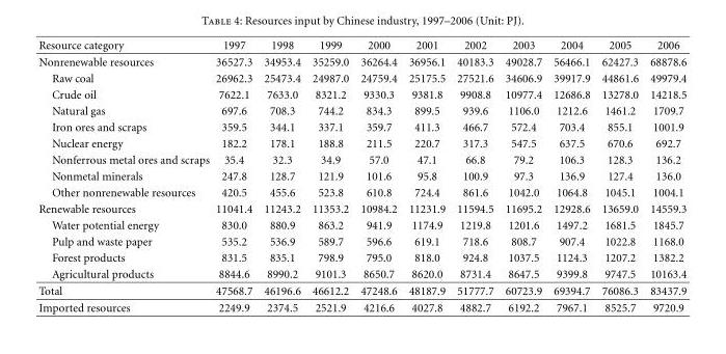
<table><thead><tr><td>Resource category</td><td>1997</td><td>1998</td><td>1999</td><td>2000</td><td>2001</td><td>2002</td><td>2003</td><td>2004</td><td>2005</td><td>2006</td></tr></thead><tbody><tr><td>Nonrenewable resources</td><td>36527.3</td><td>34953.4</td><td>35259.0</td><td>36264.4</td><td>36956.1</td><td>40183.3</td><td>49028.7</td><td>56466.1</td><td>62427.3</td><td>68878.6</td></tr><tr><td>Raw coal</td><td>26962.3</td><td>25473.4</td><td>24987.0</td><td>24759.4</td><td>25175.5</td><td>27521.6</td><td>34606.9</td><td>39917.9</td><td>44861.6</td><td>49979.4</td></tr><tr><td>Crude oil</td><td>7622.1</td><td>7633.0</td><td>8321.2</td><td>9330.3</td><td>9381.8</td><td>9908.8</td><td>10977.4</td><td>12686.8</td><td>13278.0</td><td>14218.5</td></tr><tr><td>Natural gas</td><td>697.6</td><td>708.3</td><td>744.2</td><td>834.3</td><td>899.5</td><td>939.6</td><td>1106.0</td><td>1212.6</td><td>1461.2</td><td>1709.7</td></tr><tr><td>Iron ores and scraps</td><td>359.5</td><td>344.1</td><td>337.1</td><td>359.7</td><td>411.3</td><td>466.7</td><td>572.4</td><td>703.4</td><td>855.1</td><td>1001.9</td></tr><tr><td>Nuclear energy</td><td>182.2</td><td>178.1</td><td>188.8</td><td>211.5</td><td>220.7</td><td>317.3</td><td>547.5</td><td>637.5</td><td>670.6</td><td>692.7</td></tr><tr><td>Nonferrous metal ores and scraps</td><td>35.4</td><td>32.3</td><td>34.9</td><td>57.0</td><td>47.1</td><td>66.8</td><td>79.2</td><td>106.3</td><td>128.3</td><td>136.2</td></tr><tr><td>Nonmetal minerals</td><td>247.8</td><td>128.7</td><td>121.9</td><td>101.6</td><td>95.8</td><td>100.9</td><td>97.3</td><td>136.9</td><td>127.4</td><td>136.0</td></tr><tr><td>Other nonrenewable resources</td><td>420.5</td><td>455.6</td><td>523.8</td><td>610.8</td><td>724.4</td><td>861.6</td><td>1042.0</td><td>1064.8</td><td>1045.1</td><td>1004.1</td></tr><tr><td>Renewable resources</td><td>11041.4</td><td>11243.2</td><td>11353.2</td><td>10984.2</td><td>11231.9</td><td>11594.5</td><td>11695.2</td><td>12928.6</td><td>13659.0</td><td>14559.3</td></tr><tr><td>Water potential energy</td><td>830.0</td><td>880.9</td><td>863.2</td><td>941.9</td><td>1174.9</td><td>1219.8</td><td>1201.6</td><td>1497.2</td><td>1681.5</td><td>1845.7</td></tr><tr><td>Pulp and waste paper</td><td>535.2</td><td>536.9</td><td>589.7</td><td>596.6</td><td>619.1</td><td>718.6</td><td>808.7</td><td>907.4</td><td>1022.8</td><td>1168.0</td></tr><tr><td>Forest products</td><td>831.5</td><td>835.1</td><td>798.9</td><td>795.0</td><td>818.0</td><td>924.8</td><td>1037.5</td><td>1124.3</td><td>1207.2</td><td>1382.2</td></tr><tr><td>Agricultural products</td><td>8844.6</td><td>8990.2</td><td>9101.3</td><td>8650.7</td><td>8620.0</td><td>8731.4</td><td>8647.5</td><td>9399.8</td><td>9747.5</td><td>10163.4</td></tr><tr><td>Total</td><td>47568.7</td><td>46196.6</td><td>46612.2</td><td>47248.6</td><td>48187.9</td><td>51777.7</td><td>60723.9</td><td>69394.7</td><td>76086.3</td><td>83437.9</td></tr><tr><td>Imported resources</td><td>2249.9</td><td>2374.5</td><td>2521.9</td><td>4216.6</td><td>4027.8</td><td>4882.7</td><td>6192.2</td><td>7967.1</td><td>8525.7</td><td>9720.9</td></tr></tbody></table>